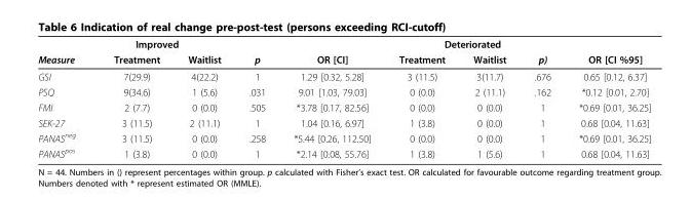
<table><thead><tr><td colspan="4">Improved</td><td colspan="5">Deteriorated</td></tr><tr><td>Measure</td><td>Treatment</td><td>Waitlist</td><td>p</td><td>OR [CI]</td><td>Treatment</td><td>Waitlist</td><td>p)</td><td>OR [CI %95]</td></tr></thead><tbody><tr><td>GSI</td><td>7(29.9)</td><td>4(22.2)</td><td>1</td><td>1.29 [0.32, 5.28]</td><td>3 (11.5)</td><td>3(11.7)</td><td>.676</td><td>0.65 [0.12, 6.37]</td></tr><tr><td>PSQ</td><td>9(34.6)</td><td>1 (5.6)</td><td>.031</td><td>9.01 [1.03, 79.03]</td><td>0 (0.0)</td><td>2 (11.1)</td><td>.162</td><td>*0.12 [0.01, 2.70]</td></tr><tr><td>FMI</td><td>2 (7.7)</td><td>0 (0.0)</td><td>.505</td><td>*3.78 [0.17, 82.56]</td><td>0 (0.0)</td><td>0 (0.0)</td><td>1</td><td>*0.69 [0.01, 36.25]</td></tr><tr><td>SEK-27</td><td>3 (11.5)</td><td>2 (11.1)</td><td>1</td><td>1.04 [0.16, 6.97]</td><td>1 (3.8)</td><td>0 (0.0)</td><td>1</td><td>0.68 [0.04, 11.63]</td></tr><tr><td>PANAS<sup>neg</sup></td><td>3 (11.5)</td><td>0 (0.0)</td><td>.258</td><td>*5.44 [0.26, 112.50]</td><td>0 (0.0)</td><td>0 (0.0)</td><td>1</td><td>*0.69 [0.01, 36.25]</td></tr><tr><td>PANAS<sup>pos</sup></td><td>1 (3.8)</td><td>0 (0.0)</td><td>1</td><td>*2.14 [0.08, 55.76]</td><td>1 (3.8)</td><td>1 (5.6)</td><td>1</td><td>0.68 [0.04, 11.63]</td></tr></tbody></table>